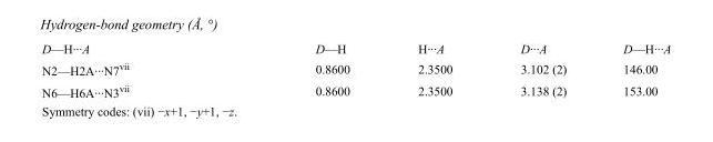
<table><tbody><tr><td>D—H···A</td><td>D—H</td><td>H···A</td><td>D···A</td><td>D—H···A</td></tr><tr><td>N2—H2A···N7<sup>vii</sup></td><td>0.8600</td><td>2.3500</td><td>3.102 (2)</td><td>146.00</td></tr><tr><td>N6—H6A···N3<sup>vii</sup></td><td>0.8600</td><td>2.3500</td><td>3.138 (2)</td><td>153.00</td></tr></tbody></table>